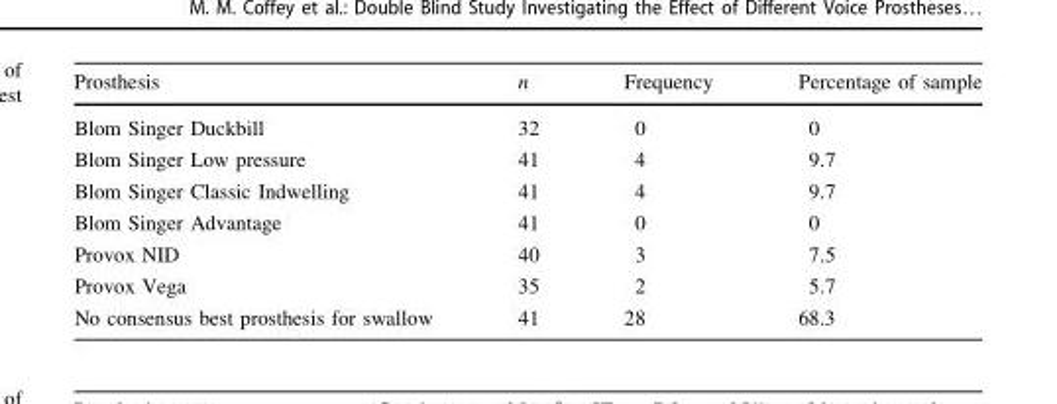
<table><thead><tr><td>Prosthesis</td><td>n</td><td>Frequency</td><td>Percentage of sample</td></tr></thead><tbody><tr><td>Blom Singer Duckbill</td><td>32</td><td>0</td><td>0</td></tr><tr><td>Blom Singer Low pressure</td><td>41</td><td>4</td><td>9.7</td></tr><tr><td>Blom Singer Classic Indwelling</td><td>41</td><td>4</td><td>9.7</td></tr><tr><td>Blom Singer Advantage</td><td>41</td><td>0</td><td>0</td></tr><tr><td>Provox NID</td><td>40</td><td>3</td><td>7.5</td></tr><tr><td>Provox Vega</td><td>35</td><td>2</td><td>5.7</td></tr><tr><td>No consensus best prosthesis for swallow</td><td>41</td><td>28</td><td>68.3</td></tr></tbody></table>